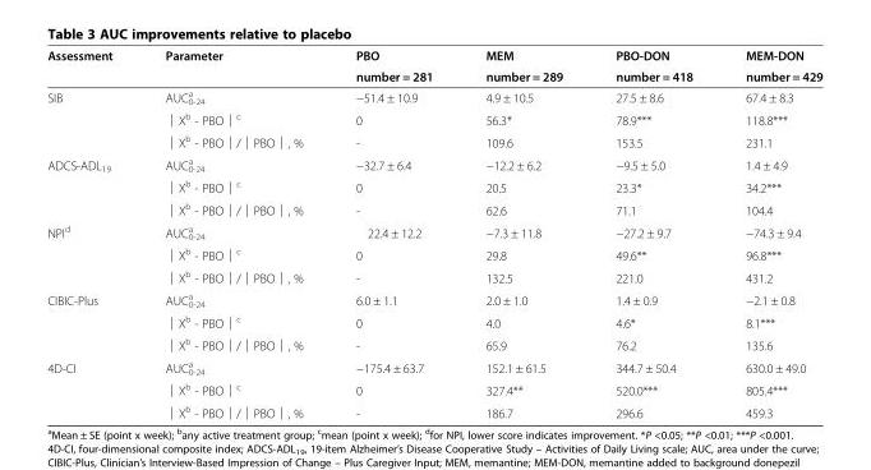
<table><thead><tr><td rowspan="2">Assessment</td><td rowspan="2">Parameter</td><td rowspan="2">PBO number = 281</td><td rowspan="2">MEM number = 289</td><td rowspan="2">PBO-DON number = 418</td><td rowspan="2">MEM-DON number = 429</td></tr><tr></tr></thead><tbody><tr><td rowspan="3">SIB</td><td>AUC<sub>0-24</sub> <sup>a</sup></td><td>−51.4 ± 10.9</td><td>4.9 ± 10.5</td><td>27.5 ± 8.6</td><td>67.4 ± 8.3</td></tr><tr><td>│X<sup>b</sup> - PBO│<sup>c</sup></td><td>0</td><td>56.3*</td><td>78.9***</td><td>118.8***</td></tr><tr><td>│X<sup>b</sup> - PBO│/│PBO│, %</td><td>-</td><td>109.6</td><td>153.5</td><td>231.1</td></tr><tr><td rowspan="3">ADCS-ADL<sub>19</sub></td><td>AUC<sub>0-24</sub> <sup>a</sup></td><td>−32.7 ± 6.4</td><td>−12.2 ± 6.2</td><td>−9.5 ± 5.0</td><td>1.4 ± 4.9</td></tr><tr><td>│X<sup>b</sup> - PBO│<sup>c</sup></td><td>0</td><td>20.5</td><td>23.3*</td><td>34.2***</td></tr><tr><td>│X<sup>b</sup> - PBO│/│PBO│, %</td><td>-</td><td>62.6</td><td>71.1</td><td>104.4</td></tr><tr><td rowspan="3">NPI<sup>d</sup></td><td>AUC<sub>0-24</sub> <sup>a</sup></td><td>22.4 ± 12.2</td><td>−7.3 ± 11.8</td><td>−27.2 ± 9.7</td><td>−74.3 ± 9.4</td></tr><tr><td>│X<sup>b</sup> - PBO│<sup>c</sup></td><td>0</td><td>29.8</td><td>49.6**</td><td>96.8***</td></tr><tr><td>│X<sup>b</sup> - PBO│/│PBO│, %</td><td>-</td><td>132.5</td><td>221.0</td><td>431.2</td></tr><tr><td rowspan="3">CIBIC-Plus</td><td>AUC<sub>0-24</sub> <sup>a</sup></td><td>6.0 ± 1.1</td><td>2.0 ± 1.0</td><td>1.4 ± 0.9</td><td>−2.1 ± 0.8</td></tr><tr><td>│X<sup>b</sup> - PBO│<sup>c</sup></td><td>0</td><td>4.0</td><td>4.6*</td><td>8.1***</td></tr><tr><td>│X<sup>b</sup> - PBO│/│PBO│, %</td><td>-</td><td>65.9</td><td>76.2</td><td>135.6</td></tr><tr><td rowspan="3">4D-CI</td><td>AUC<sub>0-24</sub> <sup>a</sup></td><td>−175.4 ± 63.7</td><td>152.1 ± 61.5</td><td>344.7 ± 50.4</td><td>630.0 ± 49.0</td></tr><tr><td>│X<sup>b</sup> - PBO│<sup>c</sup></td><td>0</td><td>327.4**</td><td>520.0***</td><td>805.4***</td></tr><tr><td>│X<sup>b</sup> - PBO│/│PBO│, %</td><td>-</td><td>186.7</td><td>296.6</td><td>459.3</td></tr></tbody></table>